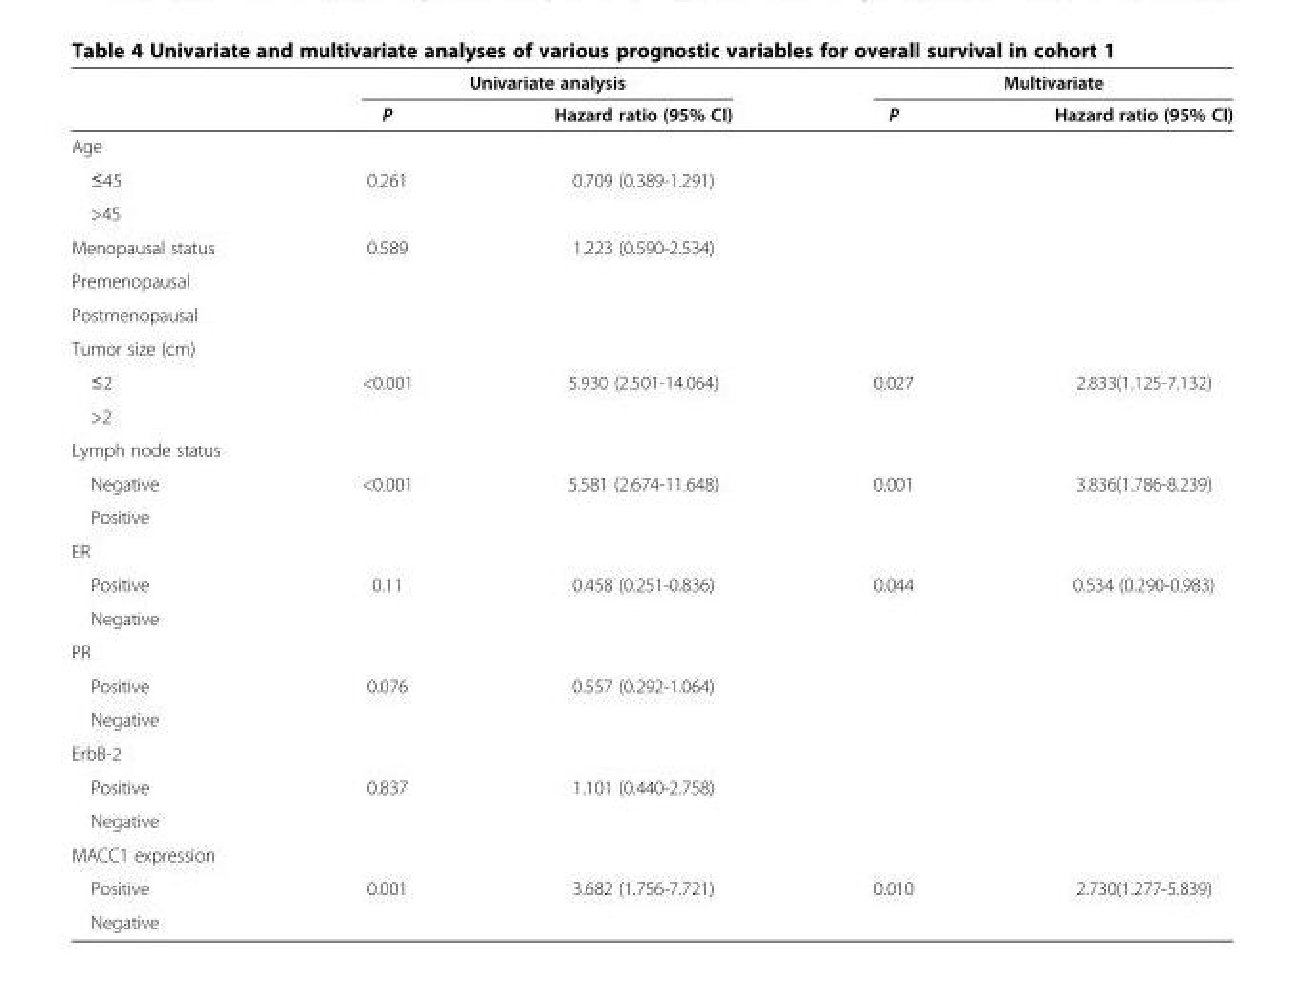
<table><thead><tr><td rowspan="2"></td><td colspan="2">Univariate analysis</td><td colspan="2">Multivariate</td></tr><tr><td>P</td><td>Hazard ratio (95% CI)</td><td>P</td><td>Hazard ratio (95% CI)</td></tr></thead><tbody><tr><td colspan="5">Age</td></tr><tr><td>≤45</td><td>0.261</td><td>0.709 (0.389-1.291)</td><td></td><td></td></tr><tr><td colspan="5">&gt;45</td></tr><tr><td>Menopausal status</td><td>0.589</td><td>1.223 (0.590-2.534)</td><td></td><td></td></tr><tr><td colspan="5">Premenopausal</td></tr><tr><td colspan="5">Postmenopausal</td></tr><tr><td colspan="5">Tumor size (cm)</td></tr><tr><td>≤2</td><td rowspan="2">&lt;0.001</td><td rowspan="2">5.930 (2.501-14.064)</td><td rowspan="2">0.027</td><td rowspan="2">2.833(1.125-7.132)</td></tr><tr><td>&gt;2</td></tr><tr><td colspan="5">Lymph node status</td></tr><tr><td>Negative</td><td rowspan="2">&lt;0.001</td><td rowspan="2">5.581 (2.674-11.648)</td><td rowspan="2">0.001</td><td rowspan="2">3.836(1.786-8.239)</td></tr><tr><td>Positive</td></tr><tr><td colspan="5">ER</td></tr><tr><td>Positive</td><td rowspan="2">0.11</td><td rowspan="2">0.458 (0.251-0.836)</td><td rowspan="2">0.044</td><td rowspan="2">0.534 (0.290-0.983)</td></tr><tr><td>Negative</td></tr><tr><td colspan="5">PR</td></tr><tr><td>Positive</td><td rowspan="2">0.076</td><td rowspan="2">0.557 (0.292-1.064)</td><td rowspan="2"></td><td rowspan="2"></td></tr><tr><td>Negative</td></tr><tr><td colspan="5">ErbB-2</td></tr><tr><td>Positive</td><td rowspan="2">0.837</td><td rowspan="2">1.101 (0.440-2.758)</td><td rowspan="2"></td><td rowspan="2"></td></tr><tr><td>Negative</td></tr><tr><td colspan="5">MACC1 expression</td></tr><tr><td>Positive</td><td rowspan="2">0.001</td><td rowspan="2">3.682 (1.756-7.721)</td><td rowspan="2">0.010</td><td rowspan="2">2.730(1.277-5.839)</td></tr><tr><td>Negative</td></tr></tbody></table>